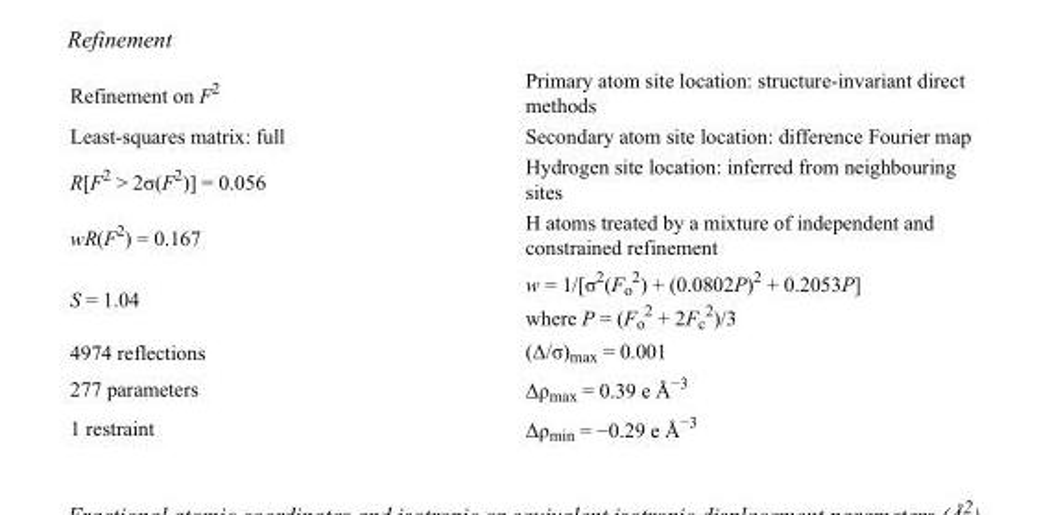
<table><tbody><tr><td>Refinement on F<sup>2</sup></td><td>Primary atom site location: structure-invariant direct methods</td></tr><tr><td>Least-squares matrix: full</td><td>Secondary atom site location: difference Fourier map</td></tr><tr><td>R[F<sup>2</sup> &gt; 2σ(F<sup>2</sup>)] = 0.056</td><td>Hydrogen site location: inferred from neighbouring sites</td></tr><tr><td>wR(F<sup>2</sup>) = 0.167</td><td>H atoms treated by a mixture of independent and constrained refinement</td></tr><tr><td>S = 1.04</td><td>w = 1/[σ<sup>2</sup>(F<sub>o</sub> <sup>2</sup>) + (0.0802P)<sup>2</sup> + 0.2053P] where P = (F<sub>o</sub> <sup>2</sup> + 2F<sub>c</sub> <sup>2</sup>)/3</td></tr><tr><td>4974 reflections</td><td>(Δ/σ)<sub>max</sub> = 0.001</td></tr><tr><td>277 parameters</td><td>Δρ<sub>max</sub> = 0.39 e Å<sup>−3</sup></td></tr><tr><td>1 restraint</td><td>Δρ<sub>min</sub> = −0.29 e Å<sup>−3</sup></td></tr></tbody></table>